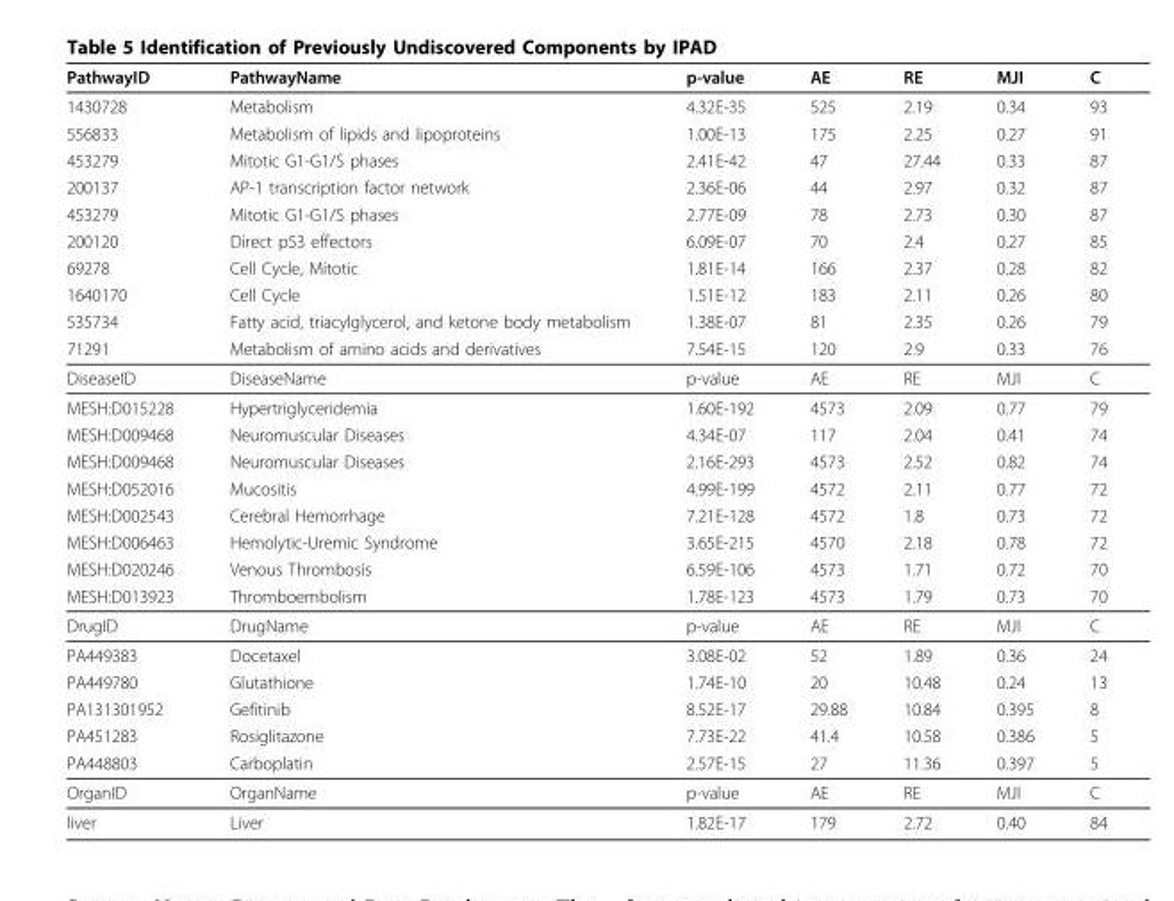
<table><thead><tr><td>PathwayID</td><td>PathwayName</td><td>p-value</td><td>AE</td><td>RE</td><td>MJI</td><td>C</td></tr></thead><tbody><tr><td>1430728</td><td>Metabolism</td><td>4.32E-35</td><td>525</td><td>2.19</td><td>0.34</td><td>93</td></tr><tr><td>556833</td><td>Metabolism of lipids and lipoproteins</td><td>1.00E-13</td><td>175</td><td>2.25</td><td>0.27</td><td>91</td></tr><tr><td>453279</td><td>Mitotic G1-G1/S phases</td><td>2.41E-42</td><td>47</td><td>27.44</td><td>0.33</td><td>87</td></tr><tr><td>200137</td><td>AP-1 transcription factor network</td><td>2.36E-06</td><td>44</td><td>2.97</td><td>0.32</td><td>87</td></tr><tr><td>453279</td><td>Mitotic G1-G1/S phases</td><td>2.77E-09</td><td>78</td><td>2.73</td><td>0.30</td><td>87</td></tr><tr><td>200120</td><td>Direct p53 effectors</td><td>6.09E-07</td><td>70</td><td>2.4</td><td>0.27</td><td>85</td></tr><tr><td>69278</td><td>Cell Cycle, Mitotic</td><td>1.81E-14</td><td>166</td><td>2.37</td><td>0.28</td><td>82</td></tr><tr><td>1640170</td><td>Cell Cycle</td><td>1.51E-12</td><td>183</td><td>2.11</td><td>0.26</td><td>80</td></tr><tr><td>535734</td><td>Fatty acid, triacylglycerol, and ketone body metabolism</td><td>1.38E-07</td><td>81</td><td>2.35</td><td>0.26</td><td>79</td></tr><tr><td>71291</td><td>Metabolism of amino acids and derivatives</td><td>7.54E-15</td><td>120</td><td>2.9</td><td>0.33</td><td>76</td></tr><tr><td>DiseaseID</td><td>DiseaseName</td><td>p-value</td><td>AE</td><td>RE</td><td>MJI</td><td>C</td></tr><tr><td>MESH:D015228</td><td>Hypertriglyceridemia</td><td>1.60E-192</td><td>4573</td><td>2.09</td><td>0.77</td><td>79</td></tr><tr><td>MESH:D009468</td><td>Neuromuscular Diseases</td><td>4.34E-07</td><td>117</td><td>2.04</td><td>0.41</td><td>74</td></tr><tr><td>MESH:D009468</td><td>Neuromuscular Diseases</td><td>2.16E-293</td><td>4573</td><td>2.52</td><td>0.82</td><td>74</td></tr><tr><td>MESH:D052016</td><td>Mucositis</td><td>4.99E-199</td><td>4572</td><td>2.11</td><td>0.77</td><td>72</td></tr><tr><td>MESH:D002543</td><td>Cerebral Hemorrhage</td><td>7.21E-128</td><td>4572</td><td>1.8</td><td>0.73</td><td>72</td></tr><tr><td>MESH:D006463</td><td>Hemolytic-Uremic Syndrome</td><td>3.65E-215</td><td>4570</td><td>2.18</td><td>0.78</td><td>72</td></tr><tr><td>MESH:D020246</td><td>Venous Thrombosis</td><td>6.59E-106</td><td>4573</td><td>1.71</td><td>0.72</td><td>70</td></tr><tr><td>MESH:D013923</td><td>Thromboembolism</td><td>1.78E-123</td><td>4573</td><td>1.79</td><td>0.73</td><td>70</td></tr><tr><td>DrugID</td><td>DrugName</td><td>p-value</td><td>AE</td><td>RE</td><td>MJI</td><td>C</td></tr><tr><td>PA449383</td><td>Docetaxel</td><td>3.08E-02</td><td>52</td><td>1.89</td><td>0.36</td><td>24</td></tr><tr><td>PA449780</td><td>Glutathione</td><td>1.74E-10</td><td>20</td><td>10.48</td><td>0.24</td><td>13</td></tr><tr><td>PA131301952</td><td>Gefitinib</td><td>8.52E-17</td><td>29.88</td><td>10.84</td><td>0.395</td><td>8</td></tr><tr><td>PA451283</td><td>Rosiglitazone</td><td>7.73E-22</td><td>41.4</td><td>10.58</td><td>0.386</td><td>5</td></tr><tr><td>PA448803</td><td>Carboplatin</td><td>2.57E-15</td><td>27</td><td>11.36</td><td>0.397</td><td>5</td></tr><tr><td>OrganID</td><td>OrganName</td><td>p-value</td><td>AE</td><td>RE</td><td>MJI</td><td>C</td></tr><tr><td>liver</td><td>Liver</td><td>1.82E-17</td><td>179</td><td>2.72</td><td>0.40</td><td>84</td></tr></tbody></table>